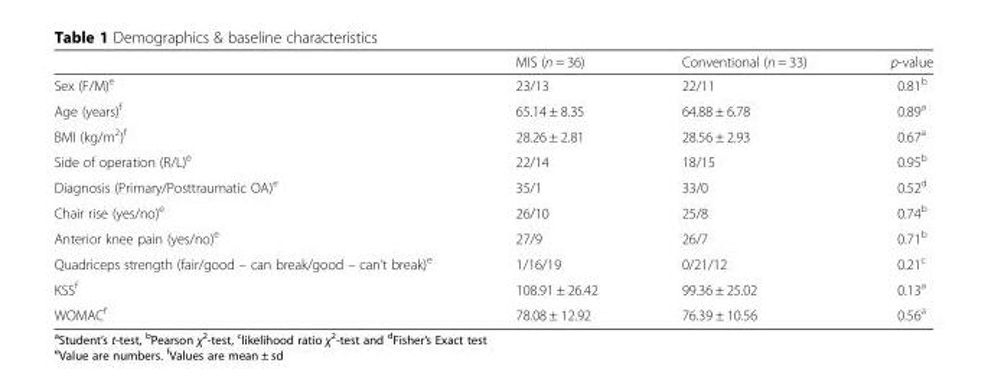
<table><thead><tr><td></td><td>MIS (n = 36)</td><td>Conventional (n = 33)</td><td>p-value</td></tr></thead><tbody><tr><td>Sex (F/M)<sup>e</sup></td><td>23/13</td><td>22/11</td><td>0.81<sup>b</sup></td></tr><tr><td>Age (years)<sup>f</sup></td><td>65.14 ± 8.35</td><td>64.88 ± 6.78</td><td>0.89<sup>a</sup></td></tr><tr><td>BMI (kg/m<sup>2</sup>)<sup>f</sup></td><td>28.26 ± 2.81</td><td>28.56 ± 2.93</td><td>0.67<sup>a</sup></td></tr><tr><td>Side of operation (R/L)<sup>e</sup></td><td>22/14</td><td>18/15</td><td>0.95<sup>b</sup></td></tr><tr><td>Diagnosis (Primary/Posttraumatic OA)<sup>e</sup></td><td>35/1</td><td>33/0</td><td>0.52<sup>d</sup></td></tr><tr><td>Chair rise (yes/no)<sup>e</sup></td><td>26/10</td><td>25/8</td><td>0.74<sup>b</sup></td></tr><tr><td>Anterior knee pain (yes/no)<sup>e</sup></td><td>27/9</td><td>26/7</td><td>0.71<sup>b</sup></td></tr><tr><td>Quadriceps strength (fair/good – can break/good – can’t break)<sup>e</sup></td><td>1/16/19</td><td>0/21/12</td><td>0.21<sup>c</sup></td></tr><tr><td>KSS<sup>f</sup></td><td>108.91 ± 26.42</td><td>99.36 ± 25.02</td><td>0.13<sup>a</sup></td></tr><tr><td>WOMAC<sup>f</sup></td><td>78.08 ± 12.92</td><td>76.39 ± 10.56</td><td>0.56<sup>a</sup></td></tr></tbody></table>